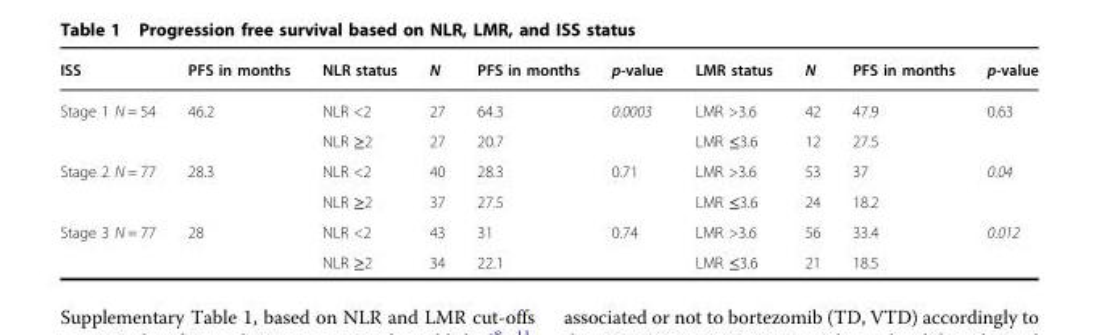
<table><thead><tr><td>ISS</td><td>PFS in months</td><td>NLR status</td><td>N</td><td>PFS in months</td><td>p-value</td><td>LMR status</td><td>N</td><td>PFS in months</td><td>p-value</td></tr></thead><tbody><tr><td rowspan="2">Stage 1 N = 54</td><td>46.2</td><td>NLR &lt;2</td><td>27</td><td>64.3</td><td>0.0003</td><td>LMR &gt;3.6</td><td>42</td><td>47.9</td><td>0.63</td></tr><tr><td></td><td>NLR ≥2</td><td>27</td><td>20.7</td><td></td><td>LMR ≤3.6</td><td>12</td><td>27.5</td><td></td></tr><tr><td rowspan="2">Stage 2 N = 77</td><td>28.3</td><td>NLR &lt;2</td><td>40</td><td>28.3</td><td>0.71</td><td>LMR &gt;3.6</td><td>53</td><td>37</td><td>0.04</td></tr><tr><td></td><td>NLR ≥2</td><td>37</td><td>27.5</td><td></td><td>LMR ≤3.6</td><td>24</td><td>18.2</td><td></td></tr><tr><td rowspan="2">Stage 3 N = 77</td><td>28</td><td>NLR &lt;2</td><td>43</td><td>31</td><td>0.74</td><td>LMR &gt;3.6</td><td>56</td><td>33.4</td><td>0.012</td></tr><tr><td></td><td>NLR ≥2</td><td>34</td><td>22.1</td><td></td><td>LMR ≤3.6</td><td>21</td><td>18.5</td><td></td></tr></tbody></table>